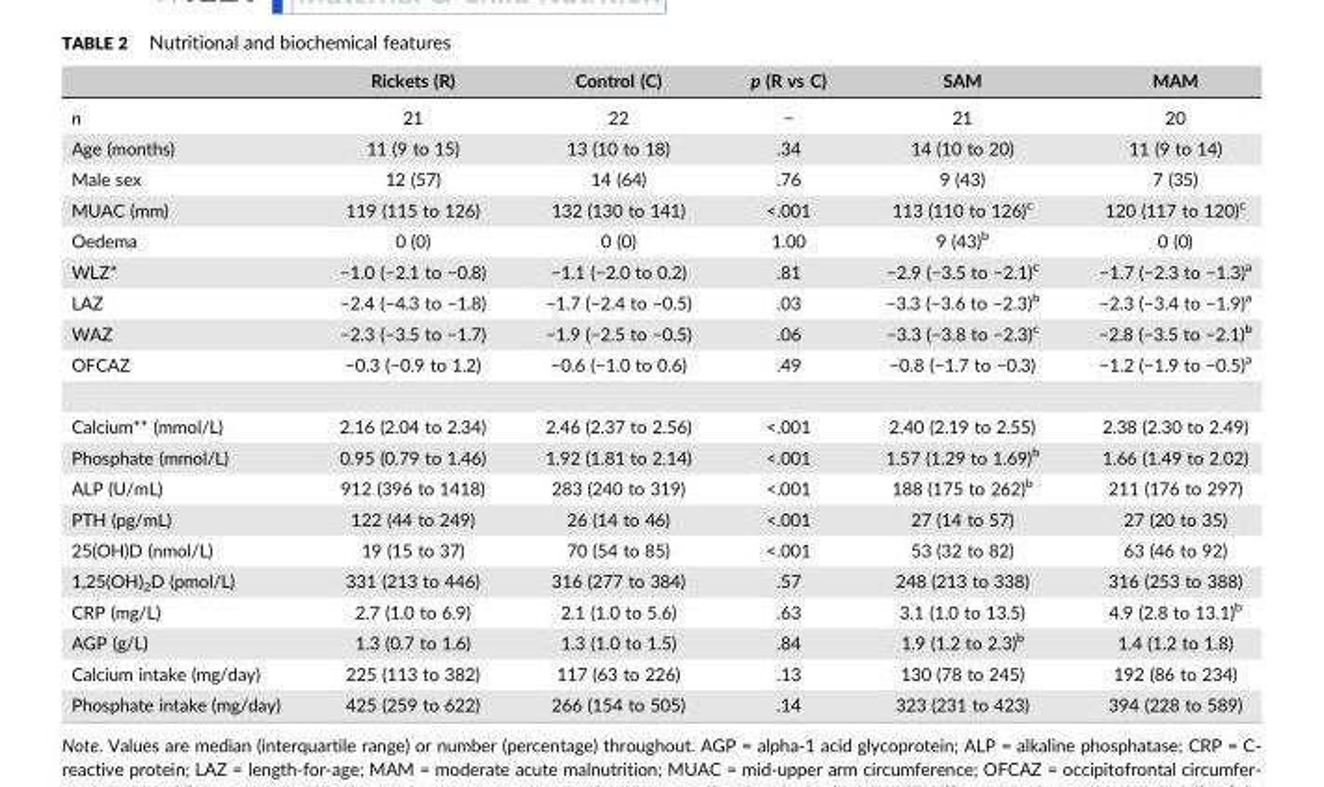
<table><thead><tr><td></td><td>Rickets (R)</td><td>Control (C)</td><td>p (R vs C)</td><td>SAM</td><td>MAM</td></tr></thead><tbody><tr><td>n</td><td>21</td><td>22</td><td>−</td><td>21</td><td>20</td></tr><tr><td>Age (months)</td><td>11 (9 to 15)</td><td>13 (10 to 18)</td><td>.34</td><td>14 (10 to 20)</td><td>11 (9 to 14)</td></tr><tr><td>Male sex</td><td>12 (57)</td><td>14 (64)</td><td>.76</td><td>9 (43)</td><td>7 (35)</td></tr><tr><td>MUAC (mm)</td><td>119 (115 to 126)</td><td>132 (130 to 141)</td><td>&lt;.001</td><td>113 (110 to 126)<sup>c</sup></td><td>120 (117 to 120)<sup>c</sup></td></tr><tr><td>Oedema</td><td>0 (0)</td><td>0 (0)</td><td>1.00</td><td>9 (43)<sup>b</sup></td><td>0 (0)</td></tr><tr><td>WLZ*</td><td>−1.0 (−2.1 to −0.8)</td><td>−1.1 (−2.0 to 0.2)</td><td>.81</td><td>−2.9 (−3.5 to −2.1)<sup>c</sup></td><td>−1.7 (−2.3 to −1.3)<sup>a</sup></td></tr><tr><td>LAZ</td><td>−2.4 (−4.3 to −1.8)</td><td>−1.7 (−2.4 to −0.5)</td><td>.03</td><td>−3.3 (−3.6 to −2.3)<sup>b</sup></td><td>−2.3 (−3.4 to −1.9)<sup>a</sup></td></tr><tr><td>WAZ</td><td>−2.3 (−3.5 to −1.7)</td><td>−1.9 (−2.5 to −0.5)</td><td>.06</td><td>−3.3 (−3.8 to −2.3)<sup>c</sup></td><td>−2.8 (−3.5 to −2.1)<sup>b</sup></td></tr><tr><td>OFCAZ</td><td>−0.3 (−0.9 to 1.2)</td><td>−0.6 (−1.0 to 0.6)</td><td>.49</td><td>−0.8 (−1.7 to −0.3)</td><td>−1.2 (−1.9 to −0.5)<sup>a</sup></td></tr><tr><td>Calcium** (mmol/L)</td><td>2.16 (2.04 to 2.34)</td><td>2.46 (2.37 to 2.56)</td><td>&lt;.001</td><td>2.40 (2.19 to 2.55)</td><td>2.38 (2.30 to 2.49)</td></tr><tr><td>Phosphate (mmol/L)</td><td>0.95 (0.79 to 1.46)</td><td>1.92 (1.81 to 2.14)</td><td>&lt;.001</td><td>1.57 (1.29 to 1.69)<sup>b</sup></td><td>1.66 (1.49 to 2.02)</td></tr><tr><td>ALP (U/mL)</td><td>912 (396 to 1418)</td><td>283 (240 to 319)</td><td>&lt;.001</td><td>188 (175 to 262)<sup>b</sup></td><td>211 (176 to 297)</td></tr><tr><td>PTH (pg/mL)</td><td>122 (44 to 249)</td><td>26 (14 to 46)</td><td>&lt;.001</td><td>27 (14 to 57)</td><td>27 (20 to 35)</td></tr><tr><td>25(OH)D (nmol/L)</td><td>19 (15 to 37)</td><td>70 (54 to 85)</td><td>&lt;.001</td><td>53 (32 to 82)</td><td>63 (46 to 92)</td></tr><tr><td>1,25(OH)<sub>2</sub>D (pmol/L)</td><td>331 (213 to 446)</td><td>316 (277 to 384)</td><td>.57</td><td>248 (213 to 338)</td><td>316 (253 to 388)</td></tr><tr><td>CRP (mg/L)</td><td>2.7 (1.0 to 6.9)</td><td>2.1 (1.0 to 5.6)</td><td>.63</td><td>3.1 (1.0 to 13.5)</td><td>4.9 (2.8 to 13.1)<sup>b</sup></td></tr><tr><td>AGP (g/L)</td><td>1.3 (0.7 to 1.6)</td><td>1.3 (1.0 to 1.5)</td><td>.84</td><td>1.9 (1.2 to 2.3)<sup>b</sup></td><td>1.4 (1.2 to 1.8)</td></tr><tr><td>Calcium intake (mg/day)</td><td>225 (113 to 382)</td><td>117 (63 to 226)</td><td>.13</td><td>130 (78 to 245)</td><td>192 (86 to 234)</td></tr><tr><td>Phosphate intake (mg/day)</td><td>425 (259 to 622)</td><td>266 (154 to 505)</td><td>.14</td><td>323 (231 to 423)</td><td>394 (228 to 589)</td></tr></tbody></table>